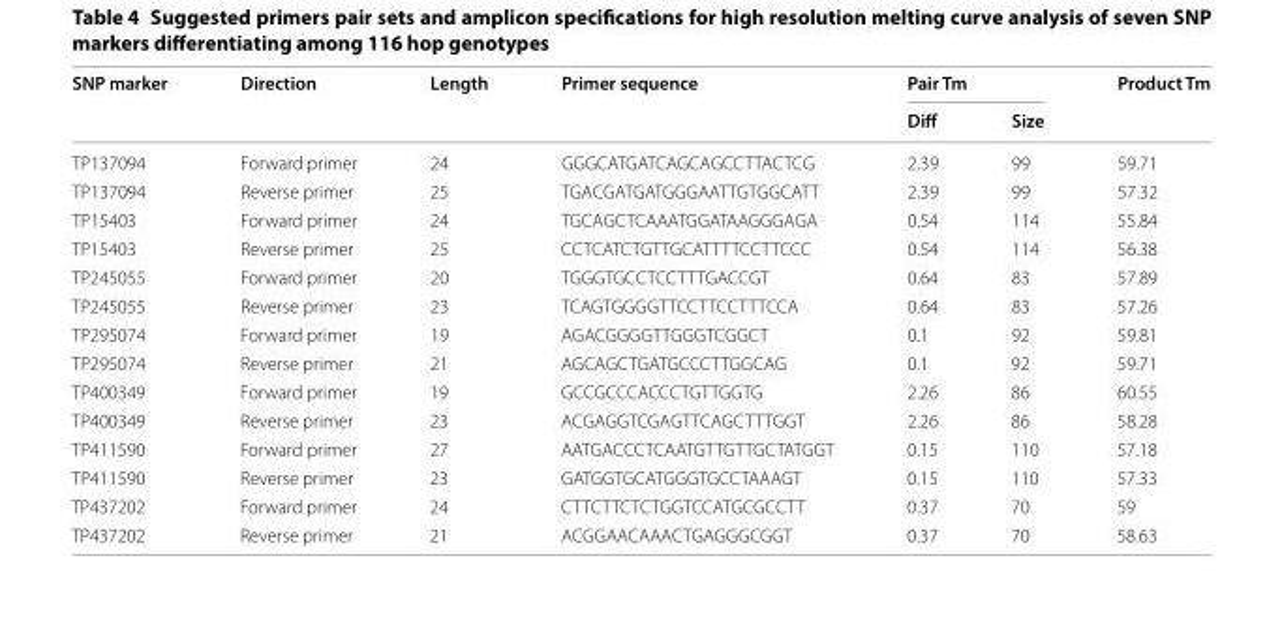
<table><thead><tr><td rowspan="2">SNP marker</td><td rowspan="2">Direction</td><td rowspan="2">Length</td><td rowspan="2">Primer sequence</td><td colspan="2">Pair Tm</td><td rowspan="2">Product Tm</td></tr><tr><td>Diff</td><td>Size</td></tr></thead><tbody><tr><td>TP137094</td><td>Forward primer</td><td>24</td><td>GGGCATGATCAGCAGCCTTACTCG</td><td>2.39</td><td>99</td><td>59.71</td></tr><tr><td>TP137094</td><td>Reverse primer</td><td>25</td><td>TGACGATGATGGGAATTGTGGCATT</td><td>2.39</td><td>99</td><td>57.32</td></tr><tr><td>TP15403</td><td>Forward primer</td><td>24</td><td>TGCAGCTCAAATGGATAAGGGAGA</td><td>0.54</td><td>114</td><td>55.84</td></tr><tr><td>TP15403</td><td>Reverse primer</td><td>25</td><td>CCTCATCTGTTGCATTTTCCTTCCC</td><td>0.54</td><td>114</td><td>56.38</td></tr><tr><td>TP245055</td><td>Forward primer</td><td>20</td><td>TGGGTGCCTCCTTTGACCGT</td><td>0.64</td><td>83</td><td>57.89</td></tr><tr><td>TP245055</td><td>Reverse primer</td><td>23</td><td>TCAGTGGGGTTCCTTCCTTTCCA</td><td>0.64</td><td>83</td><td>57.26</td></tr><tr><td>TP295074</td><td>Forward primer</td><td>19</td><td>AGACGGGGTTGGGTCGGCT</td><td>0.1</td><td>92</td><td>59.81</td></tr><tr><td>TP295074</td><td>Reverse primer</td><td>21</td><td>AGCAGCTGATGCCCTTGGCAG</td><td>0.1</td><td>92</td><td>59.71</td></tr><tr><td>TP400349</td><td>Forward primer</td><td>19</td><td>GCCGCCCACCCTGTTGGTG</td><td>2.26</td><td>86</td><td>60.55</td></tr><tr><td>TP400349</td><td>Reverse primer</td><td>23</td><td>ACGAGGTCGAGTTCAGCTTTGGT</td><td>2.26</td><td>86</td><td>58.28</td></tr><tr><td>TP411590</td><td>Forward primer</td><td>27</td><td>AATGACCCTCAATGTTGTTGCTATGGT</td><td>0.15</td><td>110</td><td>57.18</td></tr><tr><td>TP411590</td><td>Reverse primer</td><td>23</td><td>GATGGTGCATGGGTGCCTAAAGT</td><td>0.15</td><td>110</td><td>57.33</td></tr><tr><td>TP437202</td><td>Forward primer</td><td>24</td><td>CTTCTTCTCTGGTCCATGCGCCTT</td><td>0.37</td><td>70</td><td>59</td></tr><tr><td>TP437202</td><td>Reverse primer</td><td>21</td><td>ACGGAACAAACTGAGGGCGGT</td><td>0.37</td><td>70</td><td>58.63</td></tr></tbody></table>